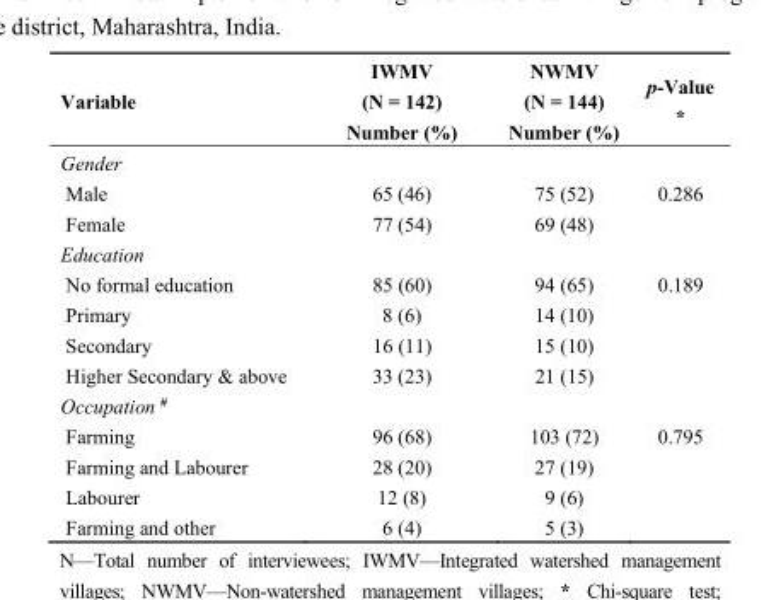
<table><thead><tr><td>Variable</td><td>IWMV (N = 142) Number (%)</td><td>NWMV (N = 144) Number (%)</td><td>p-Value *</td></tr></thead><tbody><tr><td colspan="4">Gender</td></tr><tr><td>Male</td><td>65 (46)</td><td>75 (52)</td><td>0.286</td></tr><tr><td>Female</td><td>77 (54)</td><td>69 (48)</td><td></td></tr><tr><td colspan="4">Education</td></tr><tr><td>No formal education</td><td>85 (60)</td><td>94 (65)</td><td>0.189</td></tr><tr><td>Primary</td><td>8 (6)</td><td>14 (10)</td><td></td></tr><tr><td>Secondary</td><td>16 (11)</td><td>15 (10)</td><td></td></tr><tr><td>Higher Secondary &amp; above</td><td>33 (23)</td><td>21 (15)</td><td></td></tr><tr><td colspan="4">Occupation <sup>#</sup></td></tr><tr><td>Farming</td><td>96 (68)</td><td>103 (72)</td><td>0.795</td></tr><tr><td>Farming and Labourer</td><td>28 (20)</td><td>27 (19)</td><td></td></tr><tr><td>Labourer</td><td>12 (8)</td><td>9 (6)</td><td></td></tr><tr><td>Farming and other</td><td>6 (4)</td><td>5 (3)</td><td></td></tr></tbody></table>